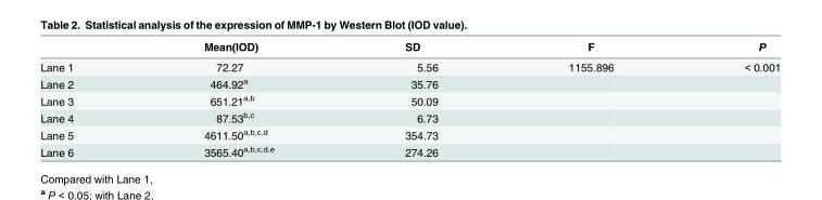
<table><thead><tr><td></td><td>Mean(IOD)</td><td>SD</td><td>F</td><td>P</td></tr></thead><tbody><tr><td>Lane 1</td><td>72.27</td><td>5.56</td><td>1155.896</td><td>&lt; 0.001</td></tr><tr><td>Lane 2</td><td>464.92<sup>a</sup></td><td>35.76</td><td></td><td></td></tr><tr><td>Lane 3</td><td>651.21<sup>a,b</sup></td><td>50.09</td><td></td><td></td></tr><tr><td>Lane 4</td><td>87.53<sup>b,c</sup></td><td>6.73</td><td></td><td></td></tr><tr><td>Lane 5</td><td>4611.50<sup>a,b,c,d</sup></td><td>354.73</td><td></td><td></td></tr><tr><td>Lane 6</td><td>3565.40<sup>a,b,c,d,e</sup></td><td>274.26</td><td></td><td></td></tr></tbody></table>